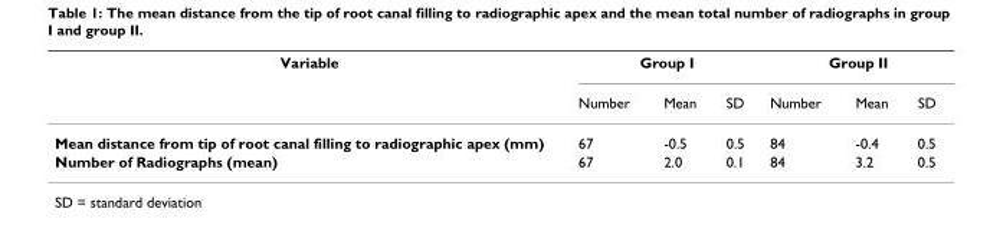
<table><thead><tr><td rowspan="2">Variable</td><td colspan="3">Group I</td><td colspan="3">Group II</td></tr><tr><td>Number</td><td>Mean</td><td>SD</td><td>Number</td><td>Mean</td><td>SD</td></tr></thead><tbody><tr><td>Mean distance from tip of root canal filling to radiographic apex (mm)</td><td>67</td><td>-0.5</td><td>0.5</td><td>84</td><td>-0.4</td><td>0.5</td></tr><tr><td>Number of Radiographs (mean)</td><td>67</td><td>2.0</td><td>0.1</td><td>84</td><td>3.2</td><td>0.5</td></tr></tbody></table>